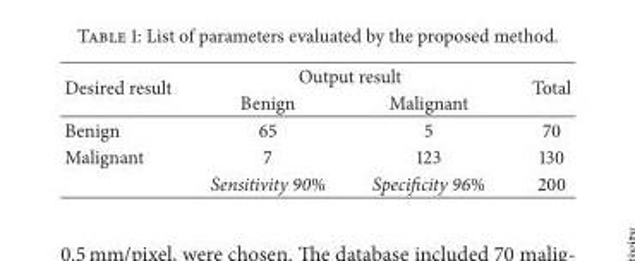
<table><thead><tr><td rowspan="2">Desired result</td><td colspan="2">Output result</td><td rowspan="2">Total</td></tr><tr><td>Benign</td><td>Malignant</td></tr></thead><tbody><tr><td>Benign</td><td>65</td><td>5</td><td>70</td></tr><tr><td rowspan="2">Malignant</td><td>7</td><td>123</td><td>130</td></tr><tr><td>Sensitivity 90%</td><td>Specificity 96%</td><td>200</td></tr></tbody></table>